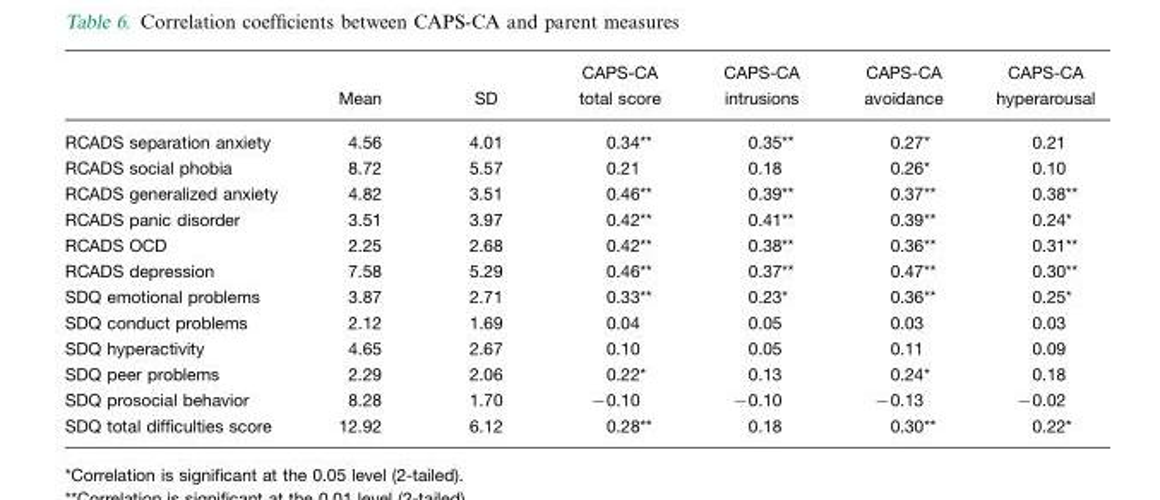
<table><thead><tr><td></td><td>Mean</td><td>SD</td><td>CAPS-CA total score</td><td>CAPS-CA intrusions</td><td>CAPS-CA avoidance</td><td>CAPS-CA hyperarousal</td></tr></thead><tbody><tr><td>RCADS separation anxiety</td><td>4.56</td><td>4.01</td><td>0.34**</td><td>0.35**</td><td>0.27*</td><td>0.21</td></tr><tr><td>RCADS social phobia</td><td>8.72</td><td>5.57</td><td>0.21</td><td>0.18</td><td>0.26*</td><td>0.10</td></tr><tr><td>RCADS generalized anxiety</td><td>4.82</td><td>3.51</td><td>0.46**</td><td>0.39**</td><td>0.37**</td><td>0.38**</td></tr><tr><td>RCADS panic disorder</td><td>3.51</td><td>3.97</td><td>0.42**</td><td>0.41**</td><td>0.39**</td><td>0.24*</td></tr><tr><td>RCADS OCD</td><td>2.25</td><td>2.68</td><td>0.42**</td><td>0.38**</td><td>0.36**</td><td>0.31**</td></tr><tr><td>RCADS depression</td><td>7.58</td><td>5.29</td><td>0.46**</td><td>0.37**</td><td>0.47**</td><td>0.30**</td></tr><tr><td>SDQ emotional problems</td><td>3.87</td><td>2.71</td><td>0.33**</td><td>0.23*</td><td>0.36**</td><td>0.25*</td></tr><tr><td>SDQ conduct problems</td><td>2.12</td><td>1.69</td><td>0.04</td><td>0.05</td><td>0.03</td><td>0.03</td></tr><tr><td>SDQ hyperactivity</td><td>4.65</td><td>2.67</td><td>0.10</td><td>0.05</td><td>0.11</td><td>0.09</td></tr><tr><td>SDQ peer problems</td><td>2.29</td><td>2.06</td><td>0.22*</td><td>0.13</td><td>0.24*</td><td>0.18</td></tr><tr><td>SDQ prosocial behavior</td><td>8.28</td><td>1.70</td><td>−0.10</td><td>−0.10</td><td>−0.13</td><td>−0.02</td></tr><tr><td>SDQ total difficulties score</td><td>12.92</td><td>6.12</td><td>0.28**</td><td>0.18</td><td>0.30**</td><td>0.22*</td></tr></tbody></table>